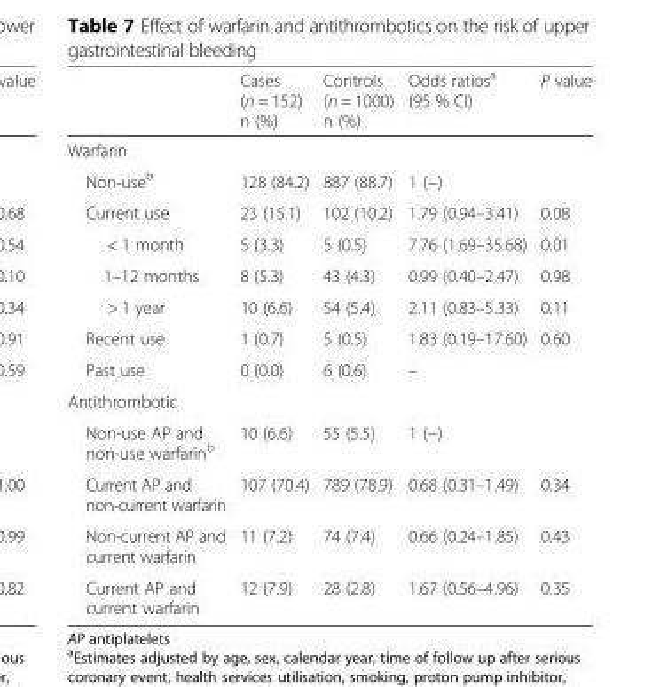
<table><thead><tr><td></td><td>Cases (n = 152) n (%)</td><td>Controls (n = 1000) n (%)</td><td>Odds ratios<sup>a</sup> (95 % CI)</td><td>P value</td></tr></thead><tbody><tr><td colspan="5">Warfarin</td></tr><tr><td>Non-use<sup>b</sup></td><td>128 (84.2)</td><td>887 (88.7)</td><td>1 (−)</td><td></td></tr><tr><td>Current use</td><td>23 (15.1)</td><td>102 (10.2)</td><td>1.79 (0.94–3.41)</td><td>0.08</td></tr><tr><td>&lt; 1 month</td><td>5 (3.3)</td><td>5 (0.5)</td><td>7.76 (1.69–35.68)</td><td>0.01</td></tr><tr><td>1–12 months</td><td>8 (5.3)</td><td>43 (4.3)</td><td>0.99 (0.40–2.47)</td><td>0.98</td></tr><tr><td>&gt; 1 year</td><td>10 (6.6)</td><td>54 (5.4)</td><td>2.11 (0.83–5.33)</td><td>0.11</td></tr><tr><td>Recent use</td><td>1 (0.7)</td><td>5 (0.5)</td><td>1.83 (0.19–17.60)</td><td>0.60</td></tr><tr><td>Past use</td><td>0 (0.0)</td><td>6 (0.6)</td><td>–</td><td></td></tr><tr><td colspan="5">Antithrombotic</td></tr><tr><td>Non-use AP and non-use warfarin<sup>b</sup></td><td>10 (6.6)</td><td>55 (5.5)</td><td>1 (−)</td><td></td></tr><tr><td>Current AP and non-current warfarin</td><td>107 (70.4)</td><td>789 (78.9)</td><td>0.68 (0.31–1.49)</td><td>0.34</td></tr><tr><td>Non-current AP and current warfarin</td><td>11 (7.2)</td><td>74 (7.4)</td><td>0.66 (0.24–1.85)</td><td>0.43</td></tr><tr><td>Current AP and current warfarin</td><td>12 (7.9)</td><td>28 (2.8)</td><td>1.67 (0.56–4.96)</td><td>0.35</td></tr></tbody></table>